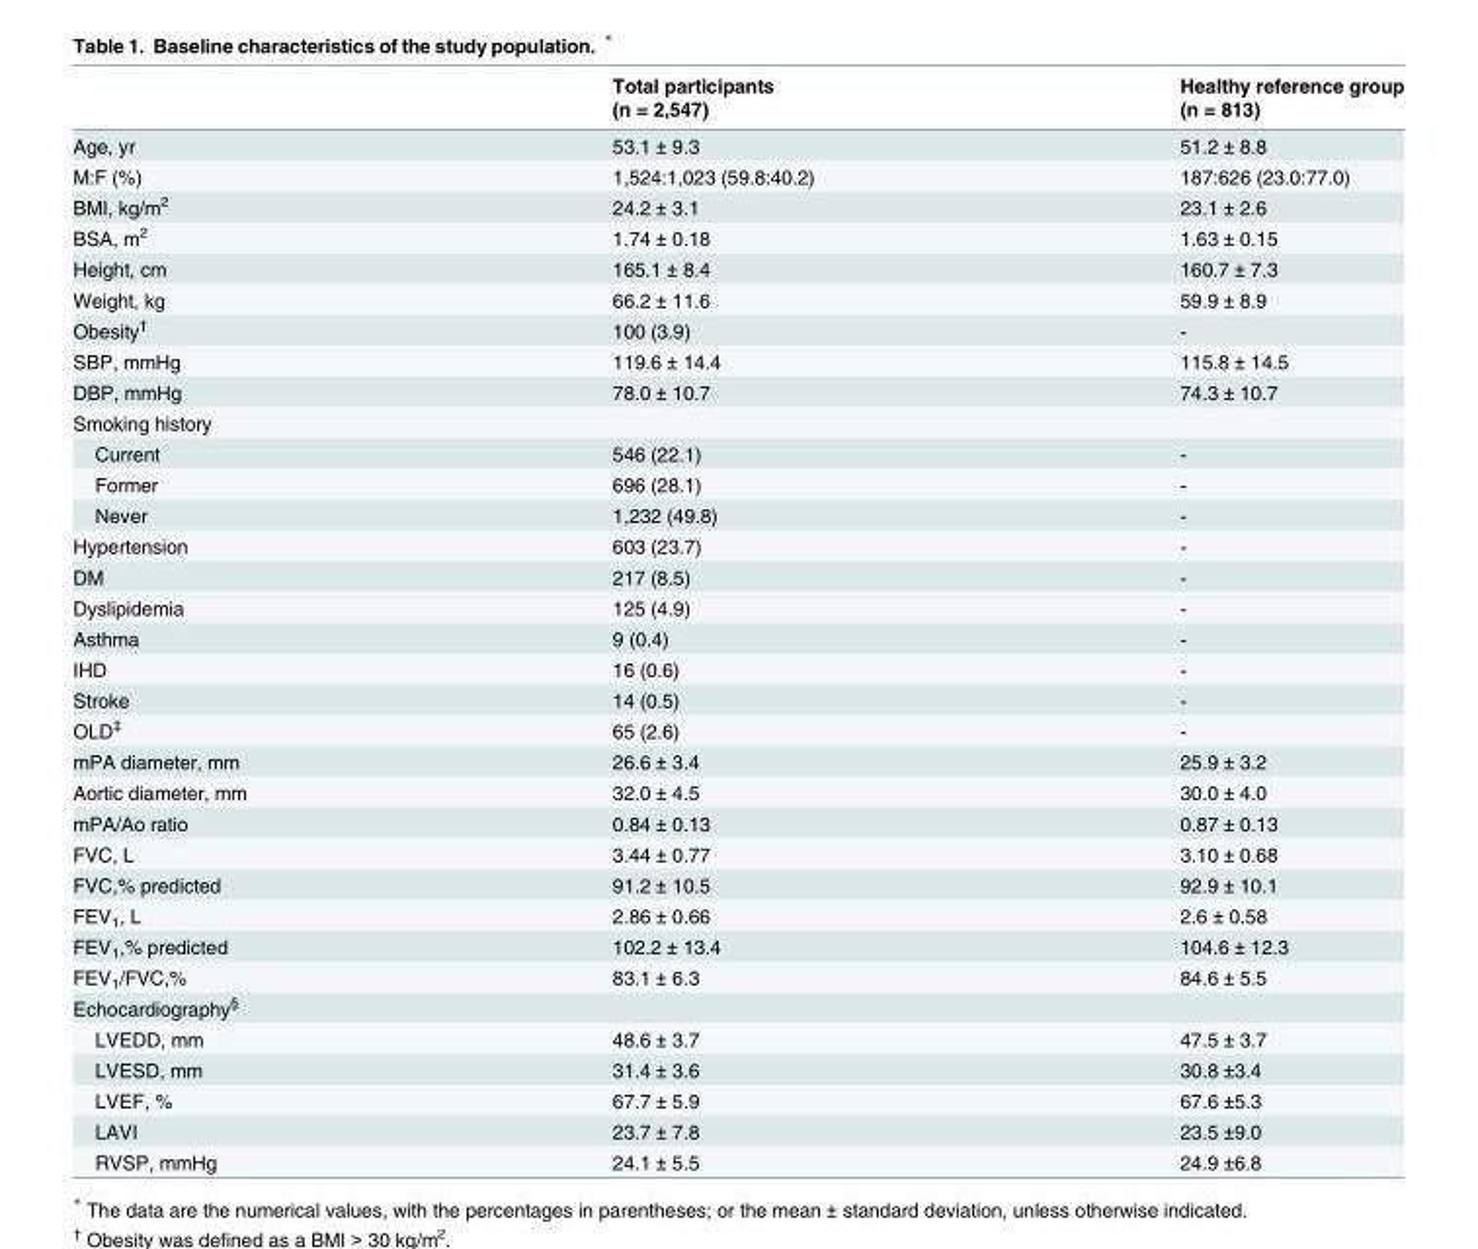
<table><thead><tr><td rowspan="2"></td><td rowspan="2">Total participants (n = 2,547)</td><td rowspan="2">Healthy reference group (n = 813)</td></tr><tr></tr></thead><tbody><tr><td>Age, yr</td><td>53.1 ± 9.3</td><td>51.2 ± 8.8</td></tr><tr><td>M:F (%)</td><td>1,524:1,023 (59.8:40.2)</td><td>187:626 (23.0:77.0)</td></tr><tr><td>BMI, kg/m<sup>2</sup></td><td>24.2 ± 3.1</td><td>23.1 ± 2.6</td></tr><tr><td>BSA, m<sup>2</sup></td><td>1.74 ± 0.18</td><td>1.63 ± 0.15</td></tr><tr><td>Height, cm</td><td>165.1 ± 8.4</td><td>160.7 ± 7.3</td></tr><tr><td>Weight, kg</td><td>66.2 ± 11.6</td><td>59.9 ± 8.9</td></tr><tr><td>Obesity<sup>†</sup></td><td>100 (3.9)</td><td>-</td></tr><tr><td>SBP, mmHg</td><td>119.6 ± 14.4</td><td>115.8 ± 14.5</td></tr><tr><td>DBP, mmHg</td><td>78.0 ± 10.7</td><td>74.3 ± 10.7</td></tr><tr><td colspan="3">Smoking history</td></tr><tr><td>Current</td><td>546 (22.1)</td><td>-</td></tr><tr><td>Former</td><td>696 (28.1)</td><td>-</td></tr><tr><td>Never</td><td>1,232 (49.8)</td><td>-</td></tr><tr><td>Hypertension</td><td>603 (23.7)</td><td>-</td></tr><tr><td>DM</td><td>217 (8.5)</td><td>-</td></tr><tr><td>Dyslipidemia</td><td>125 (4.9)</td><td>-</td></tr><tr><td>Asthma</td><td>9 (0.4)</td><td>-</td></tr><tr><td>IHD</td><td>16 (0.6)</td><td>-</td></tr><tr><td>Stroke</td><td>14 (0.5)</td><td>-</td></tr><tr><td>OLD<sup>‡</sup></td><td>65 (2.6)</td><td>-</td></tr><tr><td>mPA diameter, mm</td><td>26.6 ± 3.4</td><td>25.9 ± 3.2</td></tr><tr><td>Aortic diameter, mm</td><td>32.0 ± 4.5</td><td>30.0 ± 4.0</td></tr><tr><td>mPA/Ao ratio</td><td>0.84 ± 0.13</td><td>0.87 ± 0.13</td></tr><tr><td>FVC, L</td><td>3.44 ± 0.77</td><td>3.10 ± 0.68</td></tr><tr><td>FVC,% predicted</td><td>91.2 ± 10.5</td><td>92.9 ± 10.1</td></tr><tr><td>FEV<sub>1</sub>, L</td><td>2.86 ± 0.66</td><td>2.6 ± 0.58</td></tr><tr><td>FEV<sub>1</sub>,% predicted</td><td>102.2 ± 13.4</td><td>104.6 ± 12.3</td></tr><tr><td>FEV<sub>1</sub>/FVC,%</td><td>83.1 ± 6.3</td><td>84.6 ± 5.5</td></tr><tr><td colspan="3">Echocardiography<sup>§</sup></td></tr><tr><td>LVEDD, mm</td><td>48.6 ± 3.7</td><td>47.5 ± 3.7</td></tr><tr><td>LVESD, mm</td><td>31.4 ± 3.6</td><td>30.8 ±3.4</td></tr><tr><td>LVEF, %</td><td>67.7 ± 5.9</td><td>67.6 ±5.3</td></tr><tr><td>LAVI</td><td>23.7 ± 7.8</td><td>23.5 ±9.0</td></tr><tr><td>RVSP, mmHg</td><td>24.1 ± 5.5</td><td>24.9 ±6.8</td></tr></tbody></table>